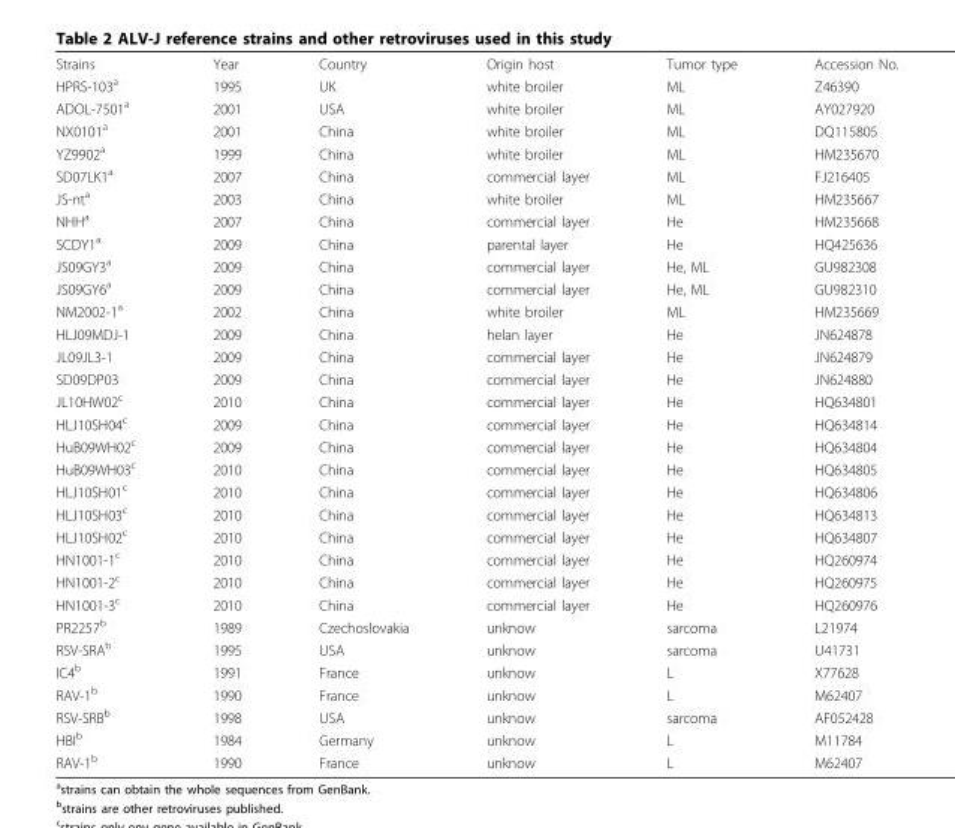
<table><tbody><tr><td>Strains</td><td>Year</td><td>Country</td><td>Origin host</td><td>Tumor type</td><td>Accession No.</td></tr><tr><td>HPRS-103<sup>a</sup></td><td>1995</td><td>UK</td><td>white broiler</td><td>ML</td><td>Z46390</td></tr><tr><td>ADOL-7501<sup>a</sup></td><td>2001</td><td>USA</td><td>white broiler</td><td>ML</td><td>AY027920</td></tr><tr><td>NX0101<sup>a</sup></td><td>2001</td><td>China</td><td>white broiler</td><td>ML</td><td>DQ115805</td></tr><tr><td>YZ9902<sup>a</sup></td><td>1999</td><td>China</td><td>white broiler</td><td>ML</td><td>HM235670</td></tr><tr><td>SD07LK1<sup>a</sup></td><td>2007</td><td>China</td><td>commercial layer</td><td>ML</td><td>FJ216405</td></tr><tr><td>JS-nt<sup>a</sup></td><td>2003</td><td>China</td><td>white broiler</td><td>ML</td><td>HM235667</td></tr><tr><td>NHH<sup>a</sup></td><td>2007</td><td>China</td><td>commercial layer</td><td>He</td><td>HM235668</td></tr><tr><td>SCDY1<sup>a</sup></td><td>2009</td><td>China</td><td>parental layer</td><td>He</td><td>HQ425636</td></tr><tr><td>JS09GY3<sup>a</sup></td><td>2009</td><td>China</td><td>commercial layer</td><td>He, ML</td><td>GU982308</td></tr><tr><td>JS09GY6<sup>a</sup></td><td>2009</td><td>China</td><td>commercial layer</td><td>He, ML</td><td>GU982310</td></tr><tr><td>NM2002-1<sup>a</sup></td><td>2002</td><td>China</td><td>white broiler</td><td>ML</td><td>HM235669</td></tr><tr><td>HLJ09MDJ-1</td><td>2009</td><td>China</td><td>helan layer</td><td>He</td><td>JN624878</td></tr><tr><td>JL09JL3-1</td><td>2009</td><td>China</td><td>commercial layer</td><td>He</td><td>JN624879</td></tr><tr><td>SD09DP03</td><td>2009</td><td>China</td><td>commercial layer</td><td>He</td><td>JN624880</td></tr><tr><td>JL10HW02<sup>c</sup></td><td>2010</td><td>China</td><td>commercial layer</td><td>He</td><td>HQ634801</td></tr><tr><td>HLJ10SH04<sup>c</sup></td><td>2009</td><td>China</td><td>commercial layer</td><td>He</td><td>HQ634814</td></tr><tr><td>HuB09WH02<sup>c</sup></td><td>2009</td><td>China</td><td>commercial layer</td><td>He</td><td>HQ634804</td></tr><tr><td>HuB09WH03<sup>c</sup></td><td>2010</td><td>China</td><td>commercial layer</td><td>He</td><td>HQ634805</td></tr><tr><td>HLJ10SH01<sup>c</sup></td><td>2010</td><td>China</td><td>commercial layer</td><td>He</td><td>HQ634806</td></tr><tr><td>HLJ10SH03<sup>c</sup></td><td>2010</td><td>China</td><td>commercial layer</td><td>He</td><td>HQ634813</td></tr><tr><td>HLJ10SH02<sup>c</sup></td><td>2010</td><td>China</td><td>commercial layer</td><td>He</td><td>HQ634807</td></tr><tr><td>HN1001-1<sup>c</sup></td><td>2010</td><td>China</td><td>commercial layer</td><td>He</td><td>HQ260974</td></tr><tr><td>HN1001-2<sup>c</sup></td><td>2010</td><td>China</td><td>commercial layer</td><td>He</td><td>HQ260975</td></tr><tr><td>HN1001-3<sup>c</sup></td><td>2010</td><td>China</td><td>commercial layer</td><td>He</td><td>HQ260976</td></tr><tr><td>PR2257<sup>b</sup></td><td>1989</td><td>Czechoslovakia</td><td>unknow</td><td>sarcoma</td><td>L21974</td></tr><tr><td>RSV-SRA<sup>b</sup></td><td>1995</td><td>USA</td><td>unknow</td><td>sarcoma</td><td>U41731</td></tr><tr><td>IC4<sup>b</sup></td><td>1991</td><td>France</td><td>unknow</td><td>L</td><td>X77628</td></tr><tr><td>RAV-1<sup>b</sup></td><td>1990</td><td>France</td><td>unknow</td><td>L</td><td>M62407</td></tr><tr><td>RSV-SRB<sup>b</sup></td><td>1998</td><td>USA</td><td>unknow</td><td>sarcoma</td><td>AF052428</td></tr><tr><td>HBI<sup>b</sup></td><td>1984</td><td>Germany</td><td>unknow</td><td>L</td><td>M11784</td></tr><tr><td>RAV-1<sup>b</sup></td><td>1990</td><td>France</td><td>unknow</td><td>L</td><td>M62407</td></tr></tbody></table>